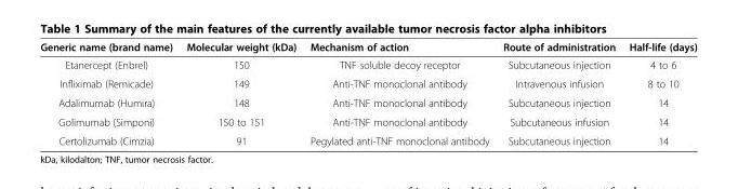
<table><thead><tr><td>Generic name (brand name)</td><td>Molecular weight (kDa)</td><td>Mechanism of action</td><td>Route of administration</td><td>Half-life (days)</td></tr></thead><tbody><tr><td>Etanercept (Enbrel)</td><td>150</td><td>TNF soluble decoy receptor</td><td>Subcutaneous injection</td><td>4 to 6</td></tr><tr><td>Infliximab (Remicade)</td><td>149</td><td>Anti-TNF monoclonal antibody</td><td>Intravenous infusion</td><td>8 to 10</td></tr><tr><td>Adalimumab (Humira)</td><td>148</td><td>Anti-TNF monoclonal antibody</td><td>Subcutaneous injection</td><td>14</td></tr><tr><td>Golimumab (Simponi)</td><td>150 to 151</td><td>Anti-TNF monoclonal antibody</td><td>Subcutaneous infusion</td><td>14</td></tr><tr><td>Certolizumab (Cimzia)</td><td>91</td><td>Pegylated anti-TNF monoclonal antibody</td><td>Subcutaneous injection</td><td>14</td></tr></tbody></table>